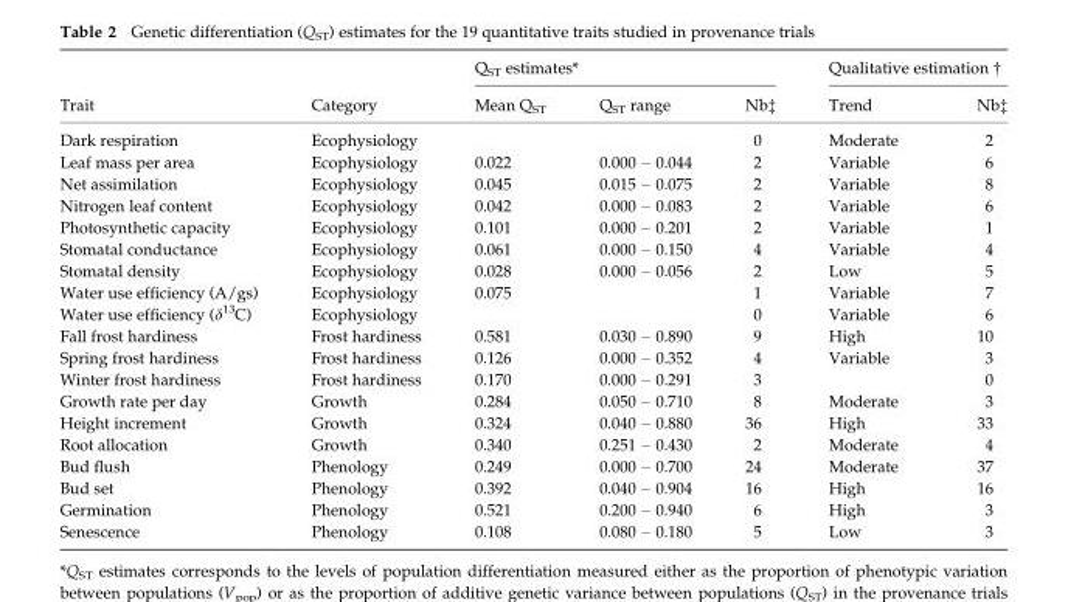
<table><thead><tr><td rowspan="2">Trait</td><td rowspan="2">Category</td><td colspan="3">Q<sub>ST</sub> estimates*</td><td colspan="2">Qualitative estimation †</td></tr><tr><td>Mean Q<sub>ST</sub></td><td>Q<sub>ST</sub> range</td><td>Nb‡</td><td>Trend</td><td>Nb‡</td></tr></thead><tbody><tr><td>Dark respiration</td><td>Ecophysiology</td><td></td><td></td><td>0</td><td>Moderate</td><td>2</td></tr><tr><td>Leaf mass per area</td><td>Ecophysiology</td><td>0.022</td><td>0.000 – 0.044</td><td>2</td><td>Variable</td><td>6</td></tr><tr><td>Net assimilation</td><td>Ecophysiology</td><td>0.045</td><td>0.015 – 0.075</td><td>2</td><td>Variable</td><td>8</td></tr><tr><td>Nitrogen leaf content</td><td>Ecophysiology</td><td>0.042</td><td>0.000 – 0.083</td><td>2</td><td>Variable</td><td>6</td></tr><tr><td>Photosynthetic capacity</td><td>Ecophysiology</td><td>0.101</td><td>0.000 – 0.201</td><td>2</td><td>Variable</td><td>1</td></tr><tr><td>Stomatal conductance</td><td>Ecophysiology</td><td>0.061</td><td>0.000 – 0.150</td><td>4</td><td>Variable</td><td>4</td></tr><tr><td>Stomatal density</td><td>Ecophysiology</td><td>0.028</td><td>0.000 – 0.056</td><td>2</td><td>Low</td><td>5</td></tr><tr><td>Water use efficiency (A/gs)</td><td>Ecophysiology</td><td>0.075</td><td></td><td>1</td><td>Variable</td><td>7</td></tr><tr><td>Water use efficiency (δ<sup>13</sup>C)</td><td>Ecophysiology</td><td></td><td></td><td>0</td><td>Variable</td><td>6</td></tr><tr><td>Fall frost hardiness</td><td>Frost hardiness</td><td>0.581</td><td>0.030 – 0.890</td><td>9</td><td>High</td><td>10</td></tr><tr><td>Spring frost hardiness</td><td>Frost hardiness</td><td>0.126</td><td>0.000 – 0.352</td><td>4</td><td>Variable</td><td>3</td></tr><tr><td>Winter frost hardiness</td><td>Frost hardiness</td><td>0.170</td><td>0.000 – 0.291</td><td>3</td><td></td><td>0</td></tr><tr><td>Growth rate per day</td><td>Growth</td><td>0.284</td><td>0.050 – 0.710</td><td>8</td><td>Moderate</td><td>3</td></tr><tr><td>Height increment</td><td>Growth</td><td>0.324</td><td>0.040 – 0.880</td><td>36</td><td>High</td><td>33</td></tr><tr><td>Root allocation</td><td>Growth</td><td>0.340</td><td>0.251 – 0.430</td><td>2</td><td>Moderate</td><td>4</td></tr><tr><td>Bud flush</td><td>Phenology</td><td>0.249</td><td>0.000 – 0.700</td><td>24</td><td>Moderate</td><td>37</td></tr><tr><td>Bud set</td><td>Phenology</td><td>0.392</td><td>0.040 – 0.904</td><td>16</td><td>High</td><td>16</td></tr><tr><td>Germination</td><td>Phenology</td><td>0.521</td><td>0.200 – 0.940</td><td>6</td><td>High</td><td>3</td></tr><tr><td>Senescence</td><td>Phenology</td><td>0.108</td><td>0.080 – 0.180</td><td>5</td><td>Low</td><td>3</td></tr></tbody></table>